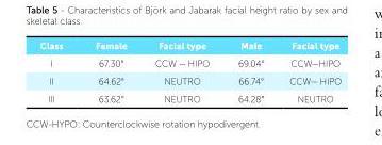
<table><thead><tr><td>Class</td><td>Female</td><td>Facial type</td><td>Male</td><td>Facial type</td></tr></thead><tbody><tr><td>I</td><td>67.30°</td><td>CCW — HIPO</td><td>69.04°</td><td>CCW—HIPO</td></tr><tr><td>II</td><td>64.62°</td><td>NEUTRO</td><td>66.74°</td><td>CCW— HIPO</td></tr><tr><td>III</td><td>63.62°</td><td>NEUTRO</td><td>64.28°</td><td>NEUTRO</td></tr></tbody></table>